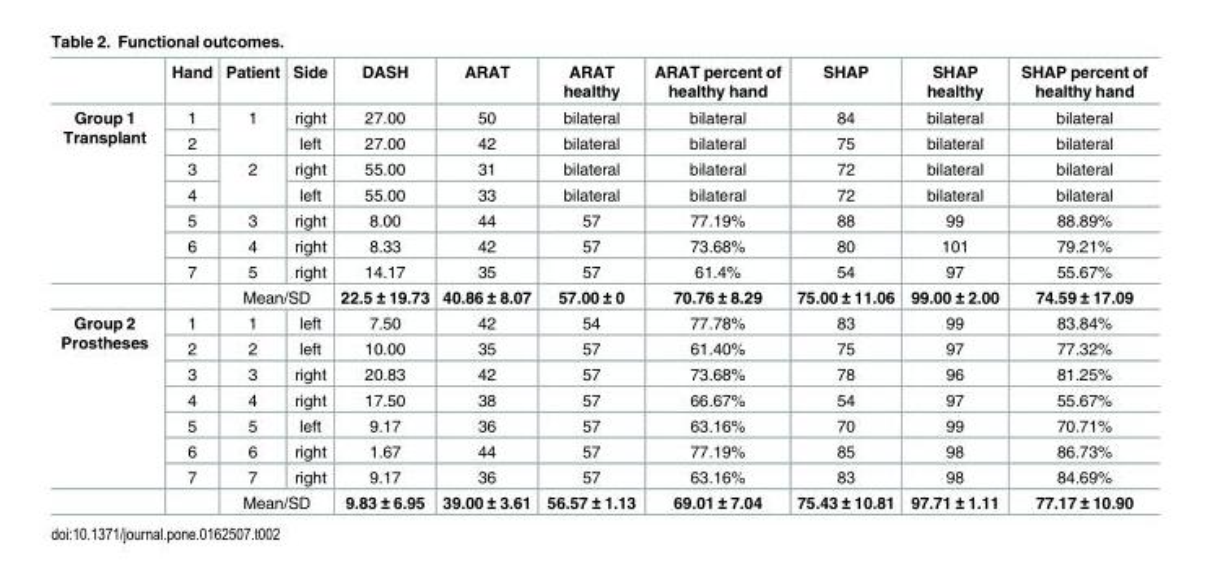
<table><thead><tr><td></td><td>Hand</td><td>Patient</td><td>Side</td><td>DASH</td><td>ARAT</td><td>ARAT healthy</td><td>ARAT percent of healthy hand</td><td>SHAP</td><td>SHAP healthy</td><td>SHAP percent of healthy hand</td></tr></thead><tbody><tr><td rowspan="8">Group 1 Transplant</td><td>1</td><td rowspan="2">1</td><td>right</td><td>27.00</td><td>50</td><td>bilateral</td><td>bilateral</td><td>84</td><td>bilateral</td><td>bilateral</td></tr><tr><td>2</td><td>left</td><td>27.00</td><td>42</td><td>bilateral</td><td>bilateral</td><td>75</td><td>bilateral</td><td>bilateral</td></tr><tr><td>3</td><td rowspan="2">2</td><td>right</td><td>55.00</td><td>31</td><td>bilateral</td><td>bilateral</td><td>72</td><td>bilateral</td><td>bilateral</td></tr><tr><td>4</td><td>left</td><td>55.00</td><td>33</td><td>bilateral</td><td>bilateral</td><td>72</td><td>bilateral</td><td>bilateral</td></tr><tr><td>5</td><td>3</td><td>right</td><td>8.00</td><td>44</td><td>57</td><td>77.19%</td><td>88</td><td>99</td><td>88.89%</td></tr><tr><td>6</td><td>4</td><td>right</td><td>8.33</td><td>42</td><td>57</td><td>73.68%</td><td>80</td><td>101</td><td>79.21%</td></tr><tr><td>7</td><td>5</td><td>right</td><td>14.17</td><td>35</td><td>57</td><td>61.4%</td><td>54</td><td>97</td><td>55.67%</td></tr><tr><td></td><td colspan="2">Mean/SD</td><td>22.5 ± 19.73</td><td>40.86 ± 8.07</td><td>57.00 ± 0</td><td>70.76 ± 8.29</td><td>75.00 ± 11.06</td><td>99.00 ± 2.00</td><td>74.59 ± 17.09</td></tr><tr><td rowspan="8">Group 2 Prostheses</td><td>1</td><td>1</td><td>left</td><td>7.50</td><td>42</td><td>54</td><td>77.78%</td><td>83</td><td>99</td><td>83.84%</td></tr><tr><td>2</td><td>2</td><td>left</td><td>10.00</td><td>35</td><td>57</td><td>61.40%</td><td>75</td><td>97</td><td>77.32%</td></tr><tr><td>3</td><td>3</td><td>right</td><td>20.83</td><td>42</td><td>57</td><td>73.68%</td><td>78</td><td>96</td><td>81.25%</td></tr><tr><td>4</td><td>4</td><td>right</td><td>17.50</td><td>38</td><td>57</td><td>66.67%</td><td>54</td><td>97</td><td>55.67%</td></tr><tr><td>5</td><td>5</td><td>left</td><td>9.17</td><td>36</td><td>57</td><td>63.16%</td><td>70</td><td>99</td><td>70.71%</td></tr><tr><td>6</td><td>6</td><td>right</td><td>1.67</td><td>44</td><td>57</td><td>77.19%</td><td>85</td><td>98</td><td>86.73%</td></tr><tr><td>7</td><td>7</td><td>right</td><td>9.17</td><td>36</td><td>57</td><td>63.16%</td><td>83</td><td>98</td><td>84.69%</td></tr><tr><td></td><td colspan="2">Mean/SD</td><td>9.83 ± 6.95</td><td>39.00 ± 3.61</td><td>56.57 ± 1.13</td><td>69.01 ± 7.04</td><td>75.43 ± 10.81</td><td>97.71 ± 1.11</td><td>77.17 ± 10.90</td></tr></tbody></table>